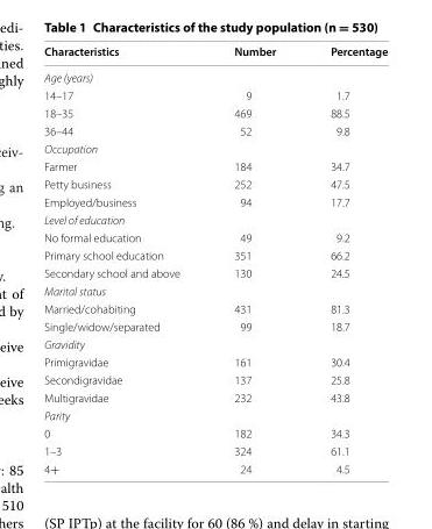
<table><thead><tr><td>Characteristics</td><td>Number</td><td>Percentage</td></tr></thead><tbody><tr><td colspan="3">Age (years)</td></tr><tr><td>14–17</td><td>9</td><td>1.7</td></tr><tr><td>18–35</td><td>469</td><td>88.5</td></tr><tr><td>36–44</td><td>52</td><td>9.8</td></tr><tr><td colspan="3">Occupation</td></tr><tr><td>Farmer</td><td>184</td><td>34.7</td></tr><tr><td>Petty business</td><td>252</td><td>47.5</td></tr><tr><td>Employed/business</td><td>94</td><td>17.7</td></tr><tr><td colspan="3">Level of education</td></tr><tr><td>No formal education</td><td>49</td><td>9.2</td></tr><tr><td>Primary school education</td><td>351</td><td>66.2</td></tr><tr><td>Secondary school and above</td><td>130</td><td>24.5</td></tr><tr><td colspan="3">Marital status</td></tr><tr><td>Married/cohabiting</td><td>431</td><td>81.3</td></tr><tr><td>Single/widow/separated</td><td>99</td><td>18.7</td></tr><tr><td colspan="3">Gravidity</td></tr><tr><td>Primigravidae</td><td>161</td><td>30.4</td></tr><tr><td>Secondigravidae</td><td>137</td><td>25.8</td></tr><tr><td>Multigravidae</td><td>232</td><td>43.8</td></tr><tr><td colspan="3">Parity</td></tr><tr><td>0</td><td>182</td><td>34.3</td></tr><tr><td>1–3</td><td>324</td><td>61.1</td></tr><tr><td>4+</td><td>24</td><td>4.5</td></tr></tbody></table>